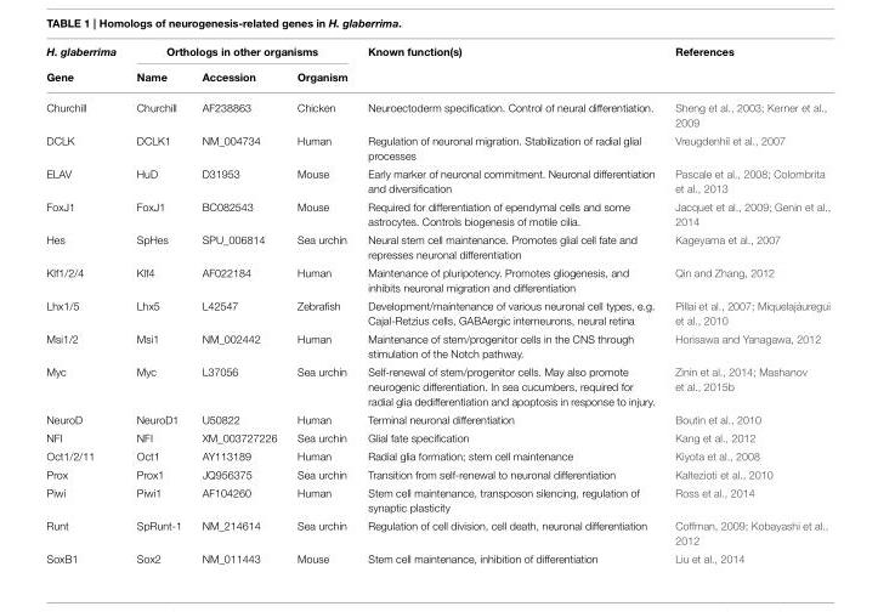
<table><thead><tr><td rowspan="2">H. glaberrima Gene</td><td colspan="3">Orthologs in other organisms</td><td rowspan="2">Known function(s)</td><td rowspan="2">References</td></tr><tr><td>Name</td><td>Accession</td><td>Organism</td></tr></thead><tbody><tr><td>Churchill</td><td>Churchill</td><td>AF238863</td><td>Chicken</td><td>Neuroectoderm specification. Control of neural differentiation.</td><td>Sheng et al., 2003; Kerner et al., 2009</td></tr><tr><td>DCLK</td><td>DCLK1</td><td>NM_004734</td><td>Human</td><td>Regulation of neuronal migration. Stabilization of radial glial processes</td><td>Vreugdenhil et al., 2007</td></tr><tr><td>ELAV</td><td>HuD</td><td>D31953</td><td>Mouse</td><td>Early marker of neuronal commitment. Neuronal differentiation and diversification</td><td>Pascale et al., 2008; Colombrita et al., 2013</td></tr><tr><td>FoxJ1</td><td>FoxJ1</td><td>BC082543</td><td>Mouse</td><td>Required for differentiation of ependymal cells and some astrocytes. Controls biogenesis of motile cilia.</td><td>Jacquet et al., 2009; Genin et al., 2014</td></tr><tr><td>Hes</td><td>SpHes</td><td>SPU_006814</td><td>Sea urchin</td><td>Neural stem cell maintenance. Promotes glial cell fate and represses neuronal differentiation</td><td>Kageyama et al., 2007</td></tr><tr><td>Klf1/2/4</td><td>Klf4</td><td>AF022184</td><td>Human</td><td>Maintenance of pluripotency. Promotes gliogenesis, and inhibits neuronal migration and differentiation</td><td>Qin and Zhang, 2012</td></tr><tr><td>Lhx1/5</td><td>Lhx5</td><td>L42547</td><td>Zebrafish</td><td>Development/maintenance of various neuronal cell types, e.g. Cajal-Retzius cells, GABAergic interneurons, neural retina</td><td>Pillai et al., 2007; Miquelajáuregui et al., 2010</td></tr><tr><td>Msi1/2</td><td>Msi1</td><td>NM_002442</td><td>Human</td><td>Maintenance of stem/progenitor cells in the CNS through stimulation of the Notch pathway.</td><td>Horisawa and Yanagawa, 2012</td></tr><tr><td>Myc</td><td>Myc</td><td>L37056</td><td>Sea urchin</td><td>Self-renewal of stem/progenitor cells. May also promote neurogenic differentiation. In sea cucumbers, required for radial glia dedifferentiation and apoptosis in response to injury.</td><td>Zinin et al., 2014; Mashanov et al., 2015b</td></tr><tr><td>NeuroD</td><td>NeuroD1</td><td>U50822</td><td>Human</td><td>Terminal neuronal differentiation</td><td>Boutin et al., 2010</td></tr><tr><td>NFI</td><td>NFI</td><td>XM_003727226</td><td>Sea urchin</td><td>Glial fate specification</td><td>Kang et al., 2012</td></tr><tr><td>Oct1/2/11</td><td>Oct1</td><td>AY113189</td><td>Human</td><td>Radial glia formation; stem cell maintenance</td><td>Kiyota et al., 2008</td></tr><tr><td>Prox</td><td>Prox1</td><td>JQ956375</td><td>Sea urchin</td><td>Transition from self-renewal to neuronal differentiation</td><td>Kaltezioti et al., 2010</td></tr><tr><td>Piwi</td><td>Piwi1</td><td>AF104260</td><td>Human</td><td>Stem cell maintenance, transposon silencing, regulation of synaptic plasticity</td><td>Ross et al., 2014</td></tr><tr><td>Runt</td><td>SpRunt-1</td><td>NM_214614</td><td>Sea urchin</td><td>Regulation of cell division, cell death, neuronal differentiation</td><td>Coffman, 2009; Kobayashi et al., 2012</td></tr><tr><td>SoxB1</td><td>Sox2</td><td>NM_011443</td><td>Mouse</td><td>Stem cell maintenance, inhibition of differentiation</td><td>Liu et al., 2014</td></tr></tbody></table>